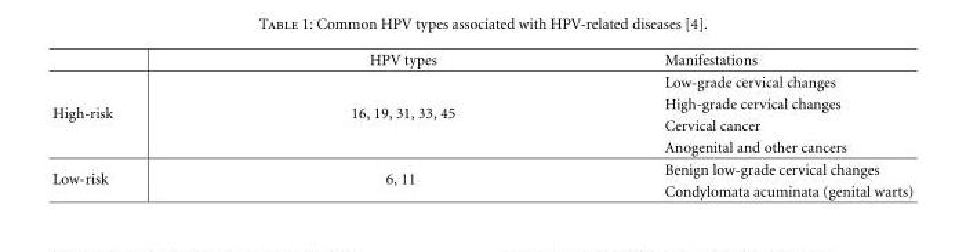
<table><thead><tr><td></td><td>HPV types</td><td>Manifestations</td></tr></thead><tbody><tr><td rowspan="4">High-risk</td><td rowspan="4">16, 19, 31, 33, 45</td><td>Low-grade cervical changes</td></tr><tr><td>High-grade cervical changes</td></tr><tr><td>Cervical cancer</td></tr><tr><td>Anogenital and other cancers</td></tr><tr><td rowspan="2">Low-risk</td><td rowspan="2">6, 11</td><td>Benign low-grade cervical changes</td></tr><tr><td>Condylomata acuminata (genital warts)</td></tr></tbody></table>